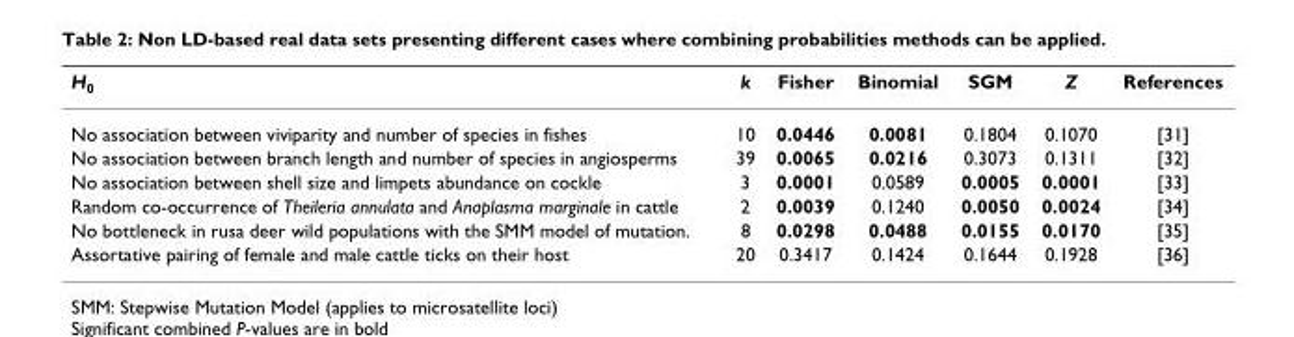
<table><thead><tr><td>H<sub>0</sub></td><td>k</td><td>Fisher</td><td>Binomial</td><td>SGM</td><td>Z</td><td>References</td></tr></thead><tbody><tr><td>No association between viviparity and number of species in fishes</td><td>10</td><td>0.0446</td><td>0.0081</td><td>0.1804</td><td>0.1070</td><td>[31]</td></tr><tr><td>No association between branch length and number of species in angiosperms</td><td>39</td><td>0.0065</td><td>0.0216</td><td>0.3073</td><td>0.1311</td><td>[32]</td></tr><tr><td>No association between shell size and limpets abundance on cockle</td><td>3</td><td>0.0001</td><td>0.0589</td><td>0.0005</td><td>0.0001</td><td>[33]</td></tr><tr><td>Random co-occurrence of Theileria annulata and Anaplasma marginale in cattle</td><td>2</td><td>0.0039</td><td>0.1240</td><td>0.0050</td><td>0.0024</td><td>[34]</td></tr><tr><td>No bottleneck in rusa deer wild populations with the SMM model of mutation.</td><td>8</td><td>0.0298</td><td>0.0488</td><td>0.0155</td><td>0.0170</td><td>[35]</td></tr><tr><td>Assortative pairing of female and male cattle ticks on their host</td><td>20</td><td>0.3417</td><td>0.1424</td><td>0.1644</td><td>0.1928</td><td>[36]</td></tr></tbody></table>